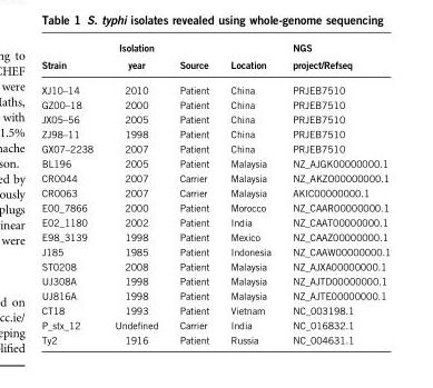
<table><thead><tr><td>Strain</td><td>Isolation year</td><td>Source</td><td>Location</td><td>NGS project/Refseq</td></tr></thead><tbody><tr><td>XJ10–14</td><td>2010</td><td>Patient</td><td>China</td><td>PRJEB7510</td></tr><tr><td>GZ00–18</td><td>2000</td><td>Patient</td><td>China</td><td>PRJEB7510</td></tr><tr><td>JX05–56</td><td>2005</td><td>Patient</td><td>China</td><td>PRJEB7510</td></tr><tr><td>ZJ98–11</td><td>1998</td><td>Patient</td><td>China</td><td>PRJEB7510</td></tr><tr><td>GX07–2238</td><td>2007</td><td>Patient</td><td>China</td><td>PRJEB7510</td></tr><tr><td>BL196</td><td>2005</td><td>Patient</td><td>Malaysia</td><td>NZ_AJGK00000000.1</td></tr><tr><td>CR0044</td><td>2007</td><td>Carrier</td><td>Malaysia</td><td>NZ_AKZO00000000.1</td></tr><tr><td>CR0063</td><td>2007</td><td>Carrier</td><td>Malaysia</td><td>AKIC00000000.1</td></tr><tr><td>E00_7866</td><td>2000</td><td>Patient</td><td>Morocco</td><td>NZ_CAAR00000000.1</td></tr><tr><td>E02_1180</td><td>2002</td><td>Patient</td><td>India</td><td>NZ_CAAT00000000.1</td></tr><tr><td>E98_3139</td><td>1998</td><td>Patient</td><td>Mexico</td><td>NZ_CAAZ00000000.1</td></tr><tr><td>J185</td><td>1985</td><td>Patient</td><td>Indonesia</td><td>NZ_CAAW00000000.1</td></tr><tr><td>ST0208</td><td>2008</td><td>Patient</td><td>Malaysia</td><td>NZ_AJXA00000000.1</td></tr><tr><td>UJ308A</td><td>1998</td><td>Patient</td><td>Malaysia</td><td>NZ_AJTD00000000.1</td></tr><tr><td>UJ816A</td><td>1998</td><td>Patient</td><td>Malaysia</td><td>NZ_AJTE00000000.1</td></tr><tr><td>CT18</td><td>1993</td><td>Patient</td><td>Vietnam</td><td>NC_003198.1</td></tr><tr><td>P_stx_12</td><td>Undefined</td><td>Carrier</td><td>India</td><td>NC_016832.1</td></tr><tr><td>Ty2</td><td>1916</td><td>Patient</td><td>Russia</td><td>NC_004631.1</td></tr></tbody></table>